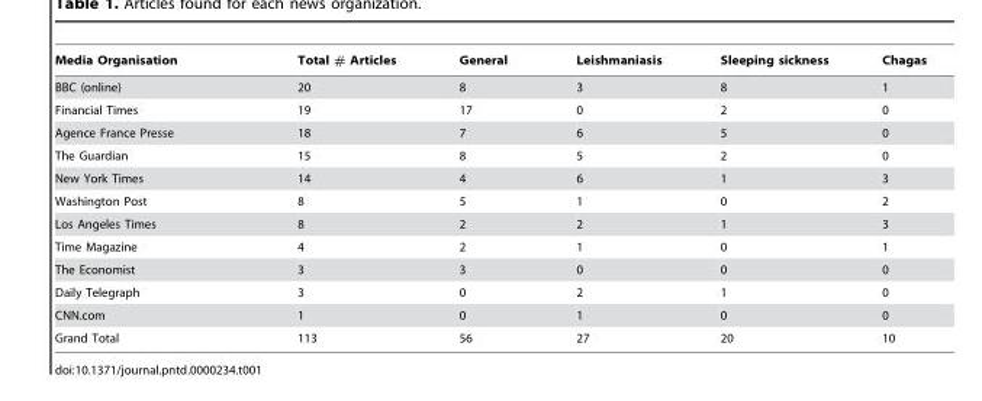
<table><thead><tr><td>Media Organisation</td><td>Total # Articles</td><td>General</td><td>Leishmaniasis</td><td>Sleeping sickness</td><td>Chagas</td></tr></thead><tbody><tr><td>BBC (online)</td><td>20</td><td>8</td><td>3</td><td>8</td><td>1</td></tr><tr><td>Financial Times</td><td>19</td><td>17</td><td>0</td><td>2</td><td>0</td></tr><tr><td>Agence France Presse</td><td>18</td><td>7</td><td>6</td><td>5</td><td>0</td></tr><tr><td>The Guardian</td><td>15</td><td>8</td><td>5</td><td>2</td><td>0</td></tr><tr><td>New York Times</td><td>14</td><td>4</td><td>6</td><td>1</td><td>3</td></tr><tr><td>Washington Post</td><td>8</td><td>5</td><td>1</td><td>0</td><td>2</td></tr><tr><td>Los Angeles Times</td><td>8</td><td>2</td><td>2</td><td>1</td><td>3</td></tr><tr><td>Time Magazine</td><td>4</td><td>2</td><td>1</td><td>0</td><td>1</td></tr><tr><td>The Economist</td><td>3</td><td>3</td><td>0</td><td>0</td><td>0</td></tr><tr><td>Daily Telegraph</td><td>3</td><td>0</td><td>2</td><td>1</td><td>0</td></tr><tr><td>CNN.com</td><td>1</td><td>0</td><td>1</td><td>0</td><td>0</td></tr><tr><td>Grand Total</td><td>113</td><td>56</td><td>27</td><td>20</td><td>10</td></tr></tbody></table>